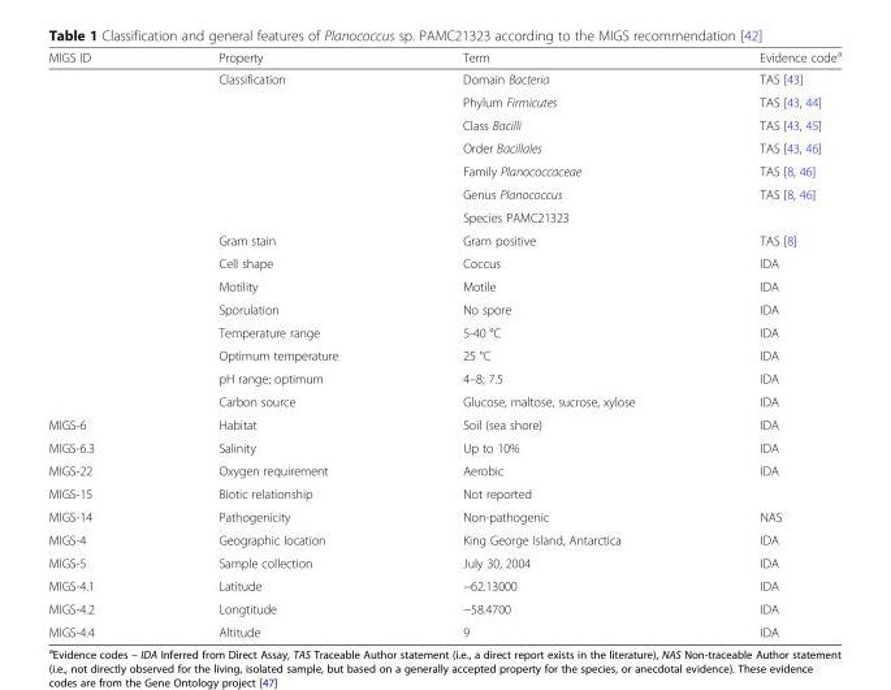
<table><thead><tr><td>MIGS ID</td><td>Property</td><td>Term</td><td>Evidence code<sup>a</sup></td></tr></thead><tbody><tr><td rowspan="15"></td><td rowspan="7">Classification</td><td>Domain Bacteria</td><td>TAS [43]</td></tr><tr><td>Phylum Firmicutes</td><td>TAS [43, 44]</td></tr><tr><td>Class Bacilli</td><td>TAS [43, 45]</td></tr><tr><td>Order Bacillales</td><td>TAS [43, 46]</td></tr><tr><td>Family Planococcaceae</td><td>TAS [8, 46]</td></tr><tr><td>Genus Planococcus</td><td>TAS [8, 46]</td></tr><tr><td>Species PAMC21323</td><td></td></tr><tr><td>Gram stain</td><td>Gram positive</td><td>TAS [8]</td></tr><tr><td>Cell shape</td><td>Coccus</td><td>IDA</td></tr><tr><td>Motility</td><td>Motile</td><td>IDA</td></tr><tr><td>Sporulation</td><td>No spore</td><td>IDA</td></tr><tr><td>Temperature range</td><td>5-40 °C</td><td>IDA</td></tr><tr><td>Optimum temperature</td><td>25 °C</td><td>IDA</td></tr><tr><td>pH range; optimum</td><td>4–8; 7.5</td><td>IDA</td></tr><tr><td>Carbon source</td><td>Glucose, maltose, sucrose, xylose</td><td>IDA</td></tr><tr><td>MIGS-6</td><td>Habitat</td><td>Soil (sea shore)</td><td>IDA</td></tr><tr><td>MIGS-6.3</td><td>Salinity</td><td>Up to 10%</td><td>IDA</td></tr><tr><td>MIGS-22</td><td>Oxygen requirement</td><td>Aerobic</td><td>IDA</td></tr><tr><td>MIGS-15</td><td>Biotic relationship</td><td>Not reported</td><td></td></tr><tr><td>MIGS-14</td><td>Pathogenicity</td><td>Non-pathogenic</td><td>NAS</td></tr><tr><td>MIGS-4</td><td>Geographic location</td><td>King George Island, Antarctica</td><td>IDA</td></tr><tr><td>MIGS-5</td><td>Sample collection</td><td>July 30, 2004</td><td>IDA</td></tr><tr><td>MIGS-4.1</td><td>Latitude</td><td>−62.13000</td><td>IDA</td></tr><tr><td>MIGS-4.2</td><td>Longtitude</td><td>−58.4700</td><td>IDA</td></tr><tr><td>MIGS-4.4</td><td>Altitude</td><td>9</td><td>IDA</td></tr></tbody></table>